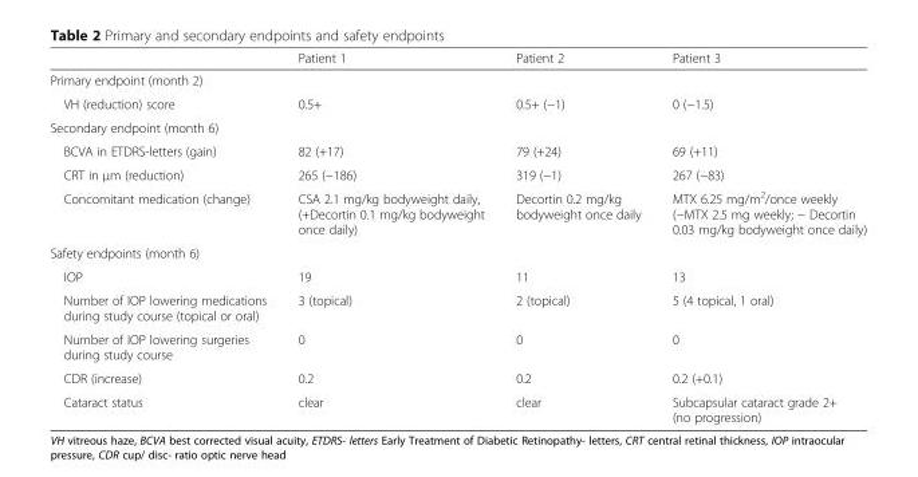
<table><thead><tr><td></td><td>Patient 1</td><td>Patient 2</td><td>Patient 3</td></tr></thead><tbody><tr><td colspan="4">Primary endpoint (month 2)</td></tr><tr><td>VH (reduction) score</td><td>0.5+</td><td>0.5+ (−1)</td><td>0 (−1.5)</td></tr><tr><td colspan="4">Secondary endpoint (month 6)</td></tr><tr><td>BCVA in ETDRS-letters (gain)</td><td>82 (+17)</td><td>79 (+24)</td><td>69 (+11)</td></tr><tr><td>CRT in μm (reduction)</td><td>265 (−186)</td><td>319 (−1)</td><td>267 (−83)</td></tr><tr><td>Concomitant medication (change)</td><td>CSA 2.1 mg/kg bodyweight daily, (+Decortin 0.1 mg/kg bodyweight once daily)</td><td>Decortin 0.2 mg/kg bodyweight once daily</td><td>MTX 6.25 mg/m<sup>2</sup>/once weekly (−MTX 2.5 mg weekly; − Decortin 0.03 mg/kg bodyweight once daily)</td></tr><tr><td colspan="4">Safety endpoints (month 6)</td></tr><tr><td>IOP</td><td>19</td><td>11</td><td>13</td></tr><tr><td>Number of IOP lowering medications during study course (topical or oral)</td><td>3 (topical)</td><td>2 (topical)</td><td>5 (4 topical, 1 oral)</td></tr><tr><td>Number of IOP lowering surgeries during study course</td><td>0</td><td>0</td><td>0</td></tr><tr><td>CDR (increase)</td><td>0.2</td><td>0.2</td><td>0.2 (+0.1)</td></tr><tr><td>Cataract status</td><td>clear</td><td>clear</td><td>Subcapsular cataract grade 2+ (no progression)</td></tr></tbody></table>